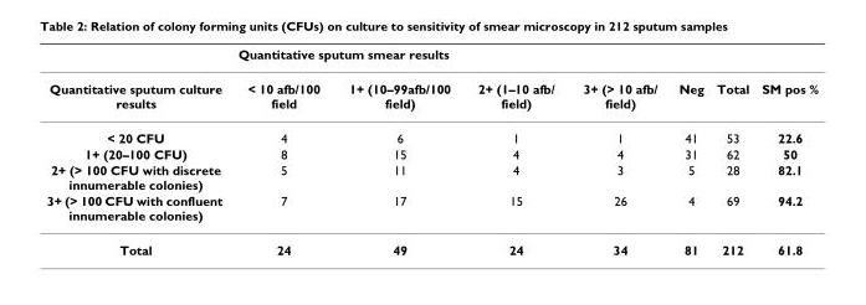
<table><thead><tr><td rowspan="2">Quantitative sputum culture results</td><td colspan="7">Quantitative sputum smear results</td></tr><tr><td>&lt; 10 afb/100 field</td><td>1+ (10–99afb/100 field)</td><td>2+ (1–10 afb/ field)</td><td>3+ (&gt; 10 afb/ field)</td><td>Neg</td><td>Total</td><td>SM pos %</td></tr></thead><tbody><tr><td>&lt; 20 CFU</td><td>4</td><td>6</td><td>1</td><td>1</td><td>41</td><td>53</td><td>22.6</td></tr><tr><td>1+ (20–100 CFU)</td><td>8</td><td>15</td><td>4</td><td>4</td><td>31</td><td>62</td><td>50</td></tr><tr><td>2+ (&gt; 100 CFU with discrete innumerable colonies)</td><td>5</td><td>11</td><td>4</td><td>3</td><td>5</td><td>28</td><td>82.1</td></tr><tr><td>3+ (&gt; 100 CFU with confluent innumerable colonies)</td><td>7</td><td>17</td><td>15</td><td>26</td><td>4</td><td>69</td><td>94.2</td></tr><tr><td>Total</td><td>24</td><td>49</td><td>24</td><td>34</td><td>81</td><td>212</td><td>61.8</td></tr></tbody></table>